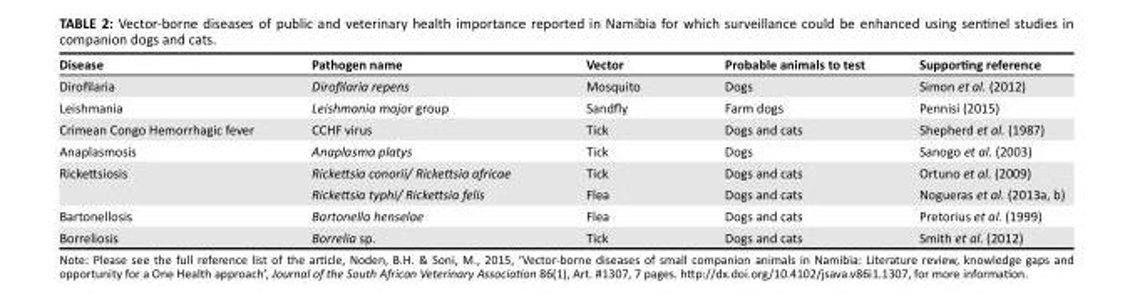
<table><thead><tr><td>Disease</td><td>Pathogen name</td><td>Vector</td><td>Probable animals to test</td><td>Supporting reference</td></tr></thead><tbody><tr><td>Dirofilaria</td><td>Dirofilaria repens</td><td>Mosquito</td><td>Dogs</td><td>Simon et al. (2012)</td></tr><tr><td>Leishmania</td><td>Leishmania major group</td><td>Sandfly</td><td>Farm dogs</td><td>Pennisi (2015)</td></tr><tr><td>Crimean Congo Hemorrhagic fever</td><td>CCHF virus</td><td>Tick</td><td>Dogs and cats</td><td>Shepherd et al. (1987)</td></tr><tr><td>Anaplasmosis</td><td>Anaplasma platys</td><td>Tick</td><td>Dogs</td><td>Sanogo et al. (2003)</td></tr><tr><td rowspan="2">Rickettsiosis</td><td>Rickettsia conorii/ Rickettsia africae</td><td>Tick</td><td>Dogs and cats</td><td>Ortuno et al. (2009)</td></tr><tr><td>Rickettsia typhi/ Rickettsia felis</td><td>Flea</td><td>Dogs and cats</td><td>Nogueras et al. (2013a, b)</td></tr><tr><td>Bartonellosis</td><td>Bartonella henselae</td><td>Flea</td><td>Dogs and cats</td><td>Pretorius et al. (1999)</td></tr><tr><td>Borreliosis</td><td>Borrelia sp.</td><td>Tick</td><td>Dogs and cats</td><td>Smith et al. (2012)</td></tr></tbody></table>